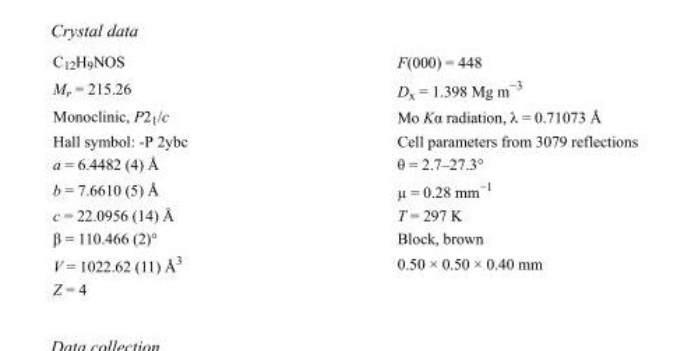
<table><tbody><tr><td>C<sub>12</sub>H<sub>9</sub>NOS</td><td>F(000) = 448</td></tr><tr><td>M<sub>r</sub> = 215.26</td><td>D<sub>x</sub> = 1.398 Mg m<sup>−3</sup></td></tr><tr><td>Monoclinic, P2<sub>1</sub>/c</td><td>Mo Kα radiation, λ = 0.71073 Å</td></tr><tr><td>Hall symbol: -P 2ybc</td><td>Cell parameters from 3079 reflections</td></tr><tr><td>a = 6.4482 (4) Å</td><td>θ = 2.7–27.3°</td></tr><tr><td>b = 7.6610 (5) Å</td><td>µ = 0.28 mm<sup>−1</sup></td></tr><tr><td>c = 22.0956 (14) Å</td><td>T = 297 K</td></tr><tr><td>β = 110.466 (2)°</td><td>Block, brown</td></tr><tr><td>V = 1022.62 (11) Å<sup>3</sup></td><td>0.50 × 0.50 × 0.40 mm</td></tr><tr><td>Z = 4</td><td></td></tr></tbody></table>